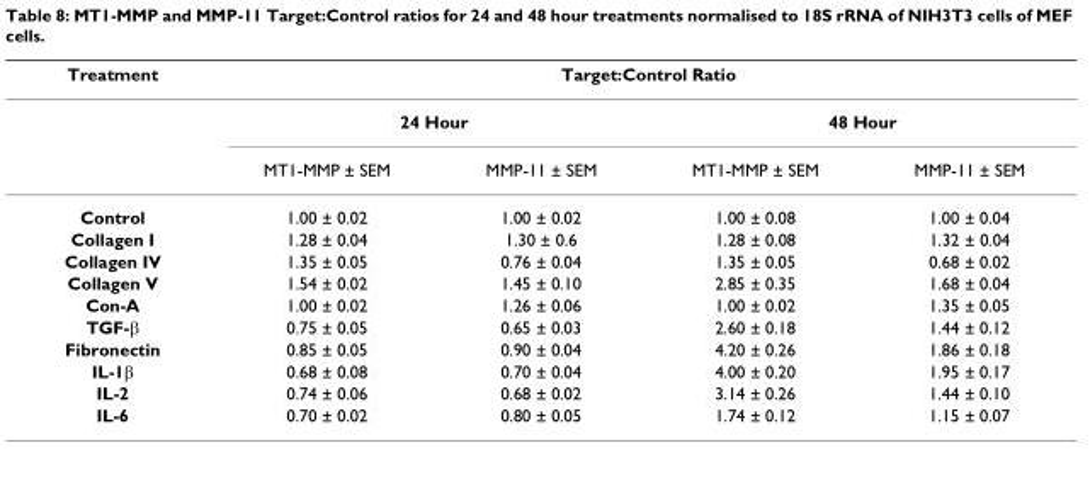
<table><thead><tr><td rowspan="3">Treatment</td><td colspan="4">Target:Control Ratio</td></tr><tr><td colspan="2">24 Hour</td><td colspan="2">48 Hour</td></tr><tr><td>MT1-MMP ± SEM</td><td>MMP-11 ± SEM</td><td>MT1-MMP ± SEM</td><td>MMP-11 ± SEM</td></tr></thead><tbody><tr><td>Control</td><td>1.00 ± 0.02</td><td>1.00 ± 0.02</td><td>1.00 ± 0.08</td><td>1.00 ± 0.04</td></tr><tr><td>Collagen I</td><td>1.28 ± 0.04</td><td>1.30 ± 0.6</td><td>1.28 ± 0.08</td><td>1.32 ± 0.04</td></tr><tr><td>Collagen IV</td><td>1.35 ± 0.05</td><td>0.76 ± 0.04</td><td>1.35 ± 0.05</td><td>0.68 ± 0.02</td></tr><tr><td>Collagen V</td><td>1.54 ± 0.02</td><td>1.45 ± 0.10</td><td>2.85 ± 0.35</td><td>1.68 ± 0.04</td></tr><tr><td>Con-A</td><td>1.00 ± 0.02</td><td>1.26 ± 0.06</td><td>1.00 ± 0.02</td><td>1.35 ± 0.05</td></tr><tr><td>TGF-β</td><td>0.75 ± 0.05</td><td>0.65 ± 0.03</td><td>2.60 ± 0.18</td><td>1.44 ± 0.12</td></tr><tr><td>Fibronectin</td><td>0.85 ± 0.05</td><td>0.90 ± 0.04</td><td>4.20 ± 0.26</td><td>1.86 ± 0.18</td></tr><tr><td>IL-1β</td><td>0.68 ± 0.08</td><td>0.70 ± 0.04</td><td>4.00 ± 0.20</td><td>1.95 ± 0.17</td></tr><tr><td>IL-2</td><td>0.74 ± 0.06</td><td>0.68 ± 0.02</td><td>3.14 ± 0.26</td><td>1.44 ± 0.10</td></tr><tr><td>IL-6</td><td>0.70 ± 0.02</td><td>0.80 ± 0.05</td><td>1.74 ± 0.12</td><td>1.15 ± 0.07</td></tr></tbody></table>